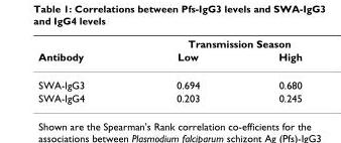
<table><thead><tr><td rowspan="2">Antibody</td><td colspan="2">Transmission Season</td></tr><tr><td>Low</td><td>High</td></tr></thead><tbody><tr><td>SWA-IgG3</td><td>0.694</td><td>0.680</td></tr><tr><td>SWA-IgG4</td><td>0.203</td><td>0.245</td></tr></tbody></table>